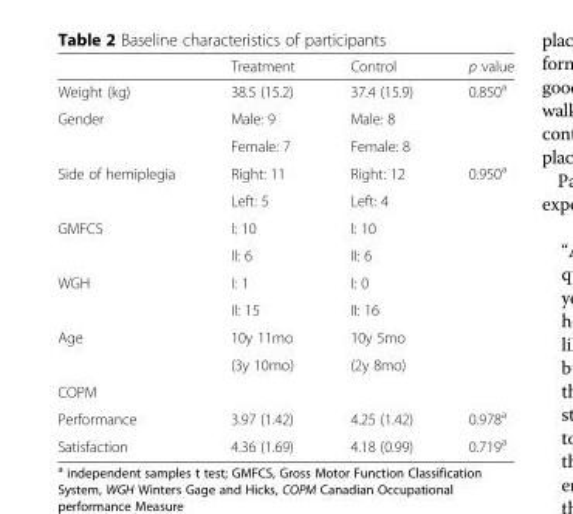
<table><thead><tr><td></td><td>Treatment</td><td>Control</td><td>p value</td></tr></thead><tbody><tr><td>Weight (kg)</td><td>38.5 (15.2)</td><td>37.4 (15.9)</td><td>0.850<sup>a</sup></td></tr><tr><td rowspan="2">Gender</td><td>Male: 9</td><td>Male: 8</td><td rowspan="2"></td></tr><tr><td>Female: 7</td><td>Female: 8</td></tr><tr><td rowspan="2">Side of hemiplegia</td><td>Right: 11</td><td>Right: 12</td><td rowspan="8">0.950<sup>a</sup></td></tr><tr><td>Left: 5</td><td>Left: 4</td></tr><tr><td rowspan="2">GMFCS</td><td>I: 10</td><td>I: 10</td></tr><tr><td>II: 6</td><td>II: 6</td></tr><tr><td rowspan="2">WGH</td><td>I: 1</td><td>I: 0</td></tr><tr><td>II: 15</td><td>II: 16</td></tr><tr><td rowspan="2">Age</td><td>10y 11mo</td><td>10y 5mo</td></tr><tr><td>(3y 10mo)</td><td>(2y 8mo)</td></tr><tr><td colspan="4">COPM</td></tr><tr><td>Performance</td><td>3.97 (1.42)</td><td>4.25 (1.42)</td><td>0.978<sup>a</sup></td></tr><tr><td>Satisfaction</td><td>4.36 (1.69)</td><td>4.18 (0.99)</td><td>0.719<sup>a</sup></td></tr></tbody></table>